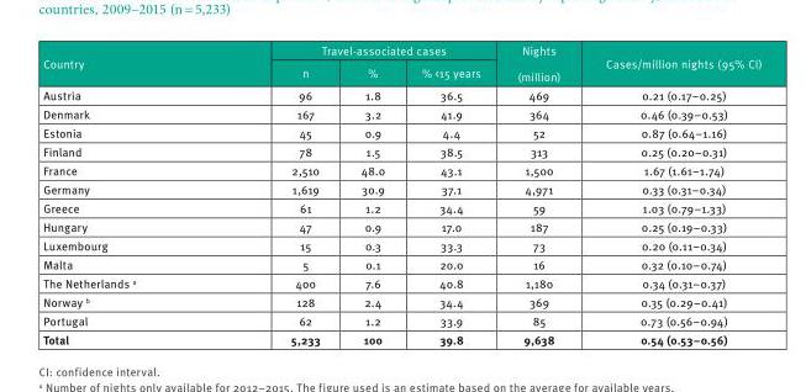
<table><thead><tr><td rowspan="2">Country</td><td colspan="3">Travel-associated cases</td><td rowspan="2">Nights (million)</td><td rowspan="2">Cases/million nights (95% CI)</td></tr><tr><td>n</td><td>%</td><td>% &lt;15 years</td></tr></thead><tbody><tr><td>Austria</td><td>96</td><td>1.8</td><td>36.5</td><td>469</td><td>0.21 (0.17–0.25)</td></tr><tr><td>Denmark</td><td>167</td><td>3.2</td><td>41.9</td><td>364</td><td>0.46 (0.39–0.53)</td></tr><tr><td>Estonia</td><td>45</td><td>0.9</td><td>4.4</td><td>52</td><td>0.87 (0.64–1.16)</td></tr><tr><td>Finland</td><td>78</td><td>1.5</td><td>38.5</td><td>313</td><td>0.25 (0.20–0.31)</td></tr><tr><td>France</td><td>2,510</td><td>48.0</td><td>43.1</td><td>1,500</td><td>1.67 (1.61–1.74)</td></tr><tr><td>Germany</td><td>1,619</td><td>30.9</td><td>37.1</td><td>4,971</td><td>0.33 (0.31–0.34)</td></tr><tr><td>Greece</td><td>61</td><td>1.2</td><td>34.4</td><td>59</td><td>1.03 (0.79–1.33)</td></tr><tr><td>Hungary</td><td>47</td><td>0.9</td><td>17.0</td><td>187</td><td>0.25 (0.19–0.33)</td></tr><tr><td>Luxembourg</td><td>15</td><td>0.3</td><td>33.3</td><td>73</td><td>0.20 (0.11–0.34)</td></tr><tr><td>Malta</td><td>5</td><td>0.1</td><td>20.0</td><td>16</td><td>0.32 (0.10–0.74)</td></tr><tr><td>The Netherlands <sup>a</sup></td><td>400</td><td>7.6</td><td>40.8</td><td>1,180</td><td>0.34 (0.31–0.37)</td></tr><tr><td>Norway <sup>b</sup></td><td>128</td><td>2.4</td><td>34.4</td><td>369</td><td>0.35 (0.29–0.41)</td></tr><tr><td>Portugal</td><td>62</td><td>1.2</td><td>33.9</td><td>85</td><td>0.73 (0.56–0.94)</td></tr><tr><td>Total</td><td>5,233</td><td>100</td><td>39.8</td><td>9,638</td><td>0.54 (0.53–0.56)</td></tr></tbody></table>